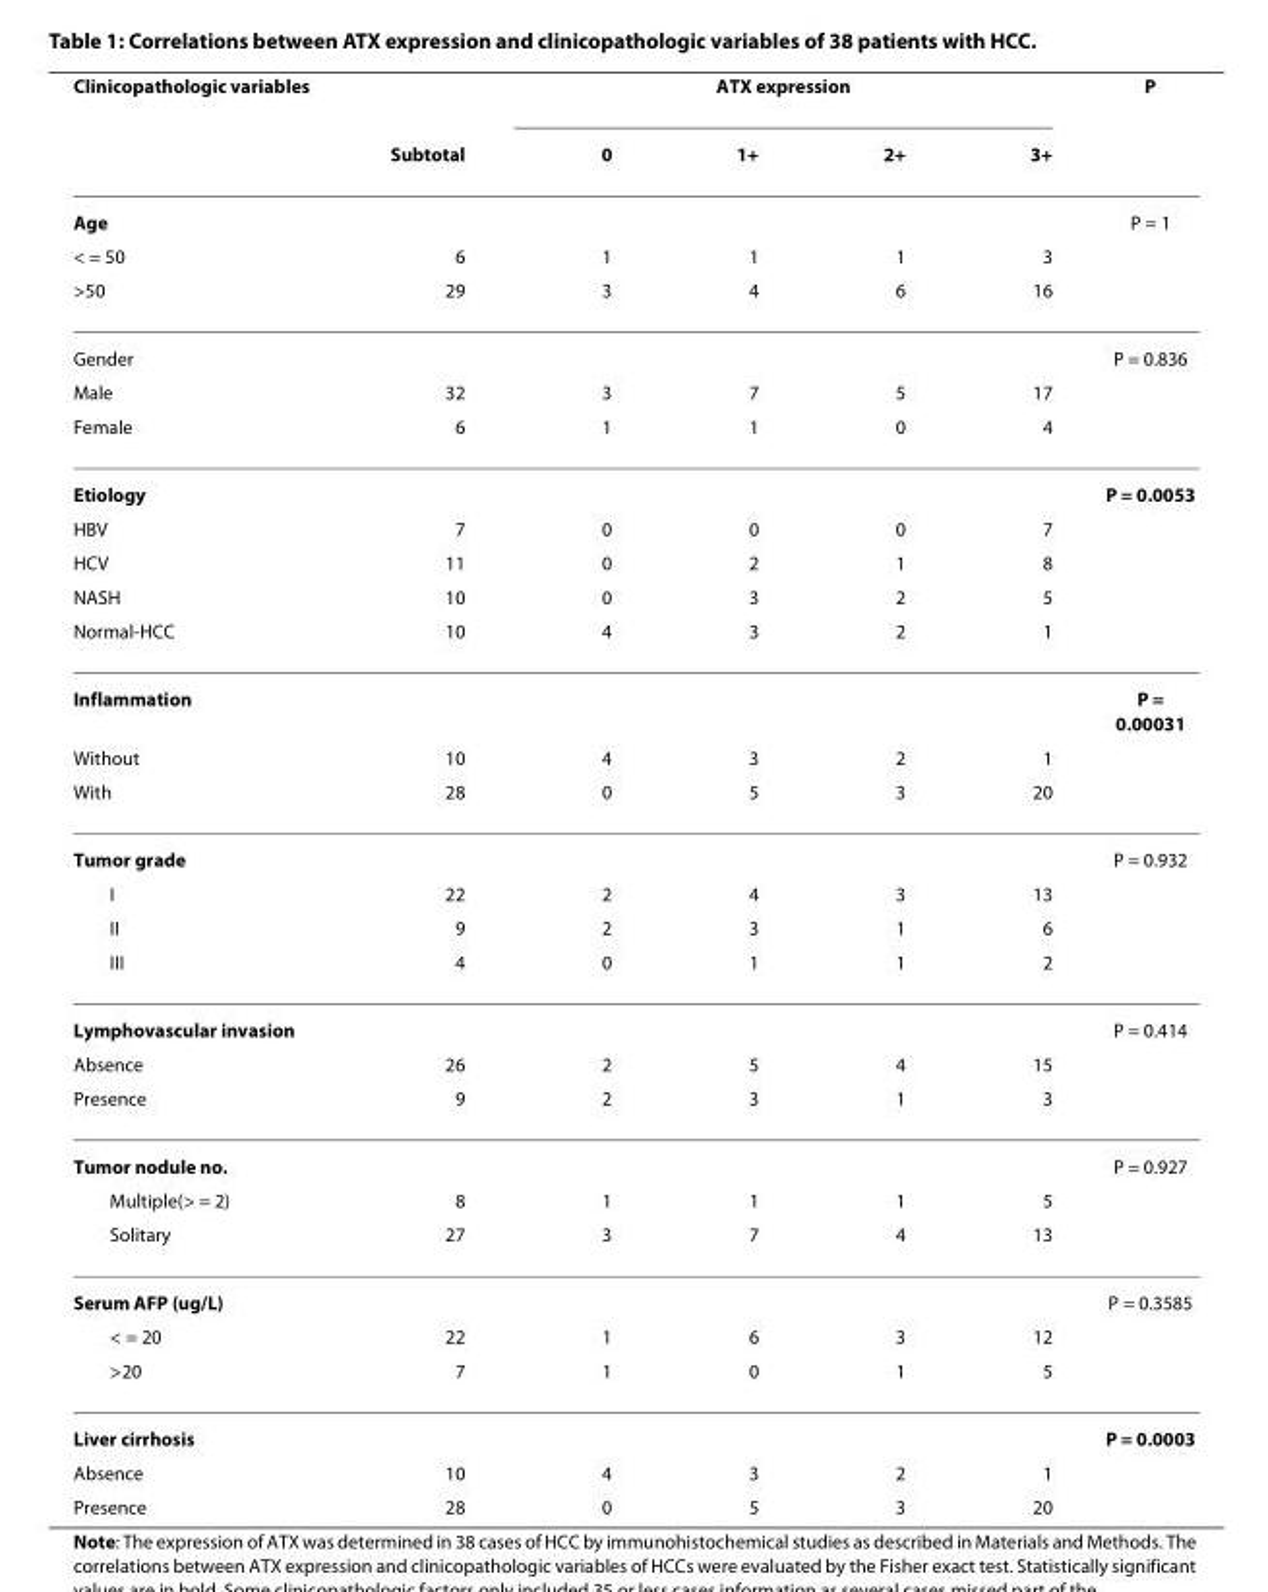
<table><thead><tr><td rowspan="2">Clinicopathologic variables</td><td rowspan="2">Subtotal</td><td colspan="4">ATX expression</td><td rowspan="2">P</td></tr><tr><td>0</td><td>1+</td><td>2+</td><td>3+</td></tr></thead><tbody><tr><td>Age</td><td></td><td></td><td></td><td></td><td></td><td>P = 1</td></tr><tr><td>&lt; = 50</td><td>6</td><td>1</td><td>1</td><td>1</td><td>3</td><td></td></tr><tr><td>&gt;50</td><td>29</td><td>3</td><td>4</td><td>6</td><td>16</td><td></td></tr><tr><td>Gender</td><td></td><td></td><td></td><td></td><td></td><td>P = 0.836</td></tr><tr><td>Male</td><td>32</td><td>3</td><td>7</td><td>5</td><td>17</td><td></td></tr><tr><td>Female</td><td>6</td><td>1</td><td>1</td><td>0</td><td>4</td><td></td></tr><tr><td>Etiology</td><td></td><td></td><td></td><td></td><td></td><td>P = 0.0053</td></tr><tr><td>HBV</td><td>7</td><td>0</td><td>0</td><td>0</td><td>7</td><td></td></tr><tr><td>HCV</td><td>11</td><td>0</td><td>2</td><td>1</td><td>8</td><td></td></tr><tr><td>NASH</td><td>10</td><td>0</td><td>3</td><td>2</td><td>5</td><td></td></tr><tr><td>Normal-HCC</td><td>10</td><td>4</td><td>3</td><td>2</td><td>1</td><td></td></tr><tr><td>Inflammation</td><td></td><td></td><td></td><td></td><td></td><td>P = 0.00031</td></tr><tr><td>Without</td><td>10</td><td>4</td><td>3</td><td>2</td><td>1</td><td></td></tr><tr><td>With</td><td>28</td><td>0</td><td>5</td><td>3</td><td>20</td><td></td></tr><tr><td>Tumor grade</td><td></td><td></td><td></td><td></td><td></td><td>P = 0.932</td></tr><tr><td>I</td><td>22</td><td>2</td><td>4</td><td>3</td><td>13</td><td></td></tr><tr><td>II</td><td>9</td><td>2</td><td>3</td><td>1</td><td>6</td><td></td></tr><tr><td>III</td><td>4</td><td>0</td><td>1</td><td>1</td><td>2</td><td></td></tr><tr><td>Lymphovascular invasion</td><td></td><td></td><td></td><td></td><td></td><td>P = 0.414</td></tr><tr><td>Absence</td><td>26</td><td>2</td><td>5</td><td>4</td><td>15</td><td></td></tr><tr><td>Presence</td><td>9</td><td>2</td><td>3</td><td>1</td><td>3</td><td></td></tr><tr><td>Tumor nodule no.</td><td></td><td></td><td></td><td></td><td></td><td>P = 0.927</td></tr><tr><td>Multiple(&gt; = 2)</td><td>8</td><td>1</td><td>1</td><td>1</td><td>5</td><td></td></tr><tr><td>Solitary</td><td>27</td><td>3</td><td>7</td><td>4</td><td>13</td><td></td></tr><tr><td>Serum AFP (ug/L)</td><td></td><td></td><td></td><td></td><td></td><td>P = 0.3585</td></tr><tr><td>&lt; = 20</td><td>22</td><td>1</td><td>6</td><td>3</td><td>12</td><td></td></tr><tr><td>&gt;20</td><td>7</td><td>1</td><td>0</td><td>1</td><td>5</td><td></td></tr><tr><td>Liver cirrhosis</td><td></td><td></td><td></td><td></td><td></td><td>P = 0.0003</td></tr><tr><td>Absence</td><td>10</td><td>4</td><td>3</td><td>2</td><td>1</td><td></td></tr><tr><td>Presence</td><td>28</td><td>0</td><td>5</td><td>3</td><td>20</td><td></td></tr></tbody></table>